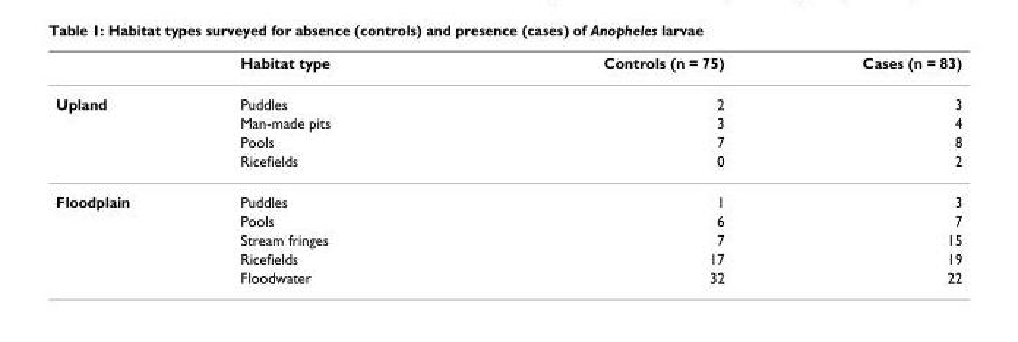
<table><thead><tr><td></td><td>Habitat type</td><td>Controls (n = 75)</td><td>Cases (n = 83)</td></tr></thead><tbody><tr><td rowspan="4">Upland</td><td>Puddles</td><td>2</td><td>3</td></tr><tr><td>Man-made pits</td><td>3</td><td>4</td></tr><tr><td>Pools</td><td>7</td><td>8</td></tr><tr><td>Ricefields</td><td>0</td><td>2</td></tr><tr><td rowspan="5">Floodplain</td><td>Puddles</td><td>1</td><td>3</td></tr><tr><td>Pools</td><td>6</td><td>7</td></tr><tr><td>Stream fringes</td><td>7</td><td>15</td></tr><tr><td>Ricefields</td><td>17</td><td>19</td></tr><tr><td>Floodwater</td><td>32</td><td>22</td></tr></tbody></table>